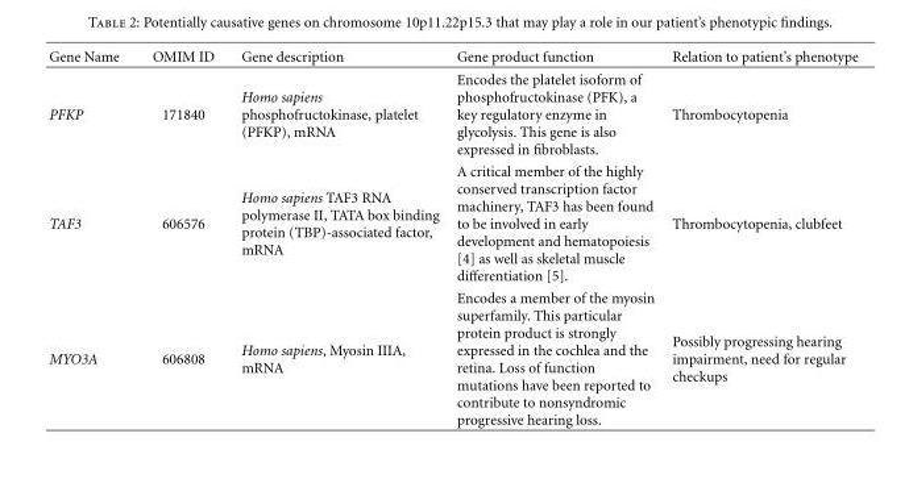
<table><thead><tr><td>Gene Name</td><td>OMIM ID</td><td>Gene description</td><td>Gene product function</td><td>Relation to patient’s phenotype</td></tr></thead><tbody><tr><td>PFKP</td><td>171840</td><td>Homo sapiens phosphofructokinase, platelet (PFKP), mRNA</td><td>Encodes the platelet isoform of phosphofructokinase (PFK), a key regulatory enzyme in glycolysis. This gene is also expressed in fibroblasts.</td><td>Thrombocytopenia</td></tr><tr><td>TAF3</td><td>606576</td><td>Homo sapiens TAF3 RNA polymerase II, TATA box binding protein (TBP)-associated factor, mRNA</td><td>A critical member of the highly conserved transcription factor machinery, TAF3 has been found to be involved in early development and hematopoiesis [4] as well as skeletal muscle differentiation [5].</td><td>Thrombocytopenia, clubfeet</td></tr><tr><td>MYO3A</td><td>606808</td><td>Homo sapiens, Myosin IIIA, mRNA</td><td>Encodes a member of the myosin superfamily. This particular protein product is strongly expressed in the cochlea and the retina. Loss of function mutations have been reported to contribute to nonsyndromic progressive hearing loss.</td><td>Possibly progressing hearing impairment, need for regular checkups</td></tr></tbody></table>